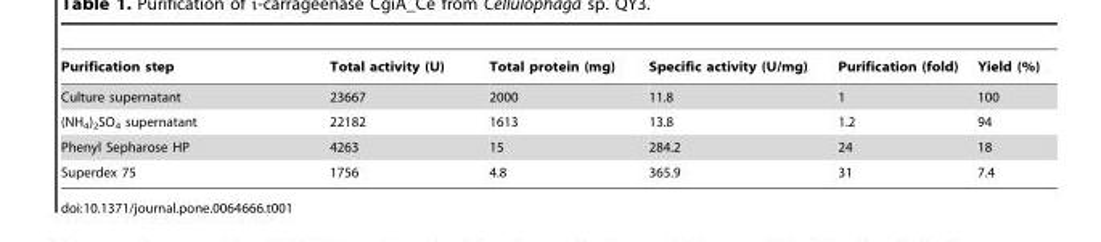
<table><thead><tr><td>Purification step</td><td>Total activity (U)</td><td>Total protein (mg)</td><td>Specific activity (U/mg)</td><td>Purification (fold)</td><td>Yield (%)</td></tr></thead><tbody><tr><td>Culture supernatant</td><td>23667</td><td>2000</td><td>11.8</td><td>1</td><td>100</td></tr><tr><td>(NH<sub>4</sub>)<sub>2</sub>SO<sub>4</sub> supernatant</td><td>22182</td><td>1613</td><td>13.8</td><td>1.2</td><td>94</td></tr><tr><td>Phenyl Sepharose HP</td><td>4263</td><td>15</td><td>284.2</td><td>24</td><td>18</td></tr><tr><td>Superdex 75</td><td>1756</td><td>4.8</td><td>365.9</td><td>31</td><td>7.4</td></tr></tbody></table>